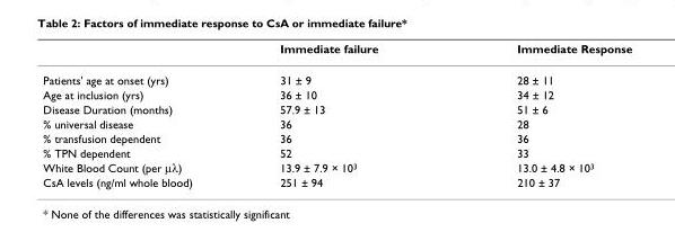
<table><thead><tr><td></td><td>Immediate failure</td><td>Immediate Response</td></tr></thead><tbody><tr><td>Patients&#x27; age at onset (yrs)</td><td>31 ± 9</td><td>28 ± 11</td></tr><tr><td>Age at inclusion (yrs)</td><td>36 ± 10</td><td>34 ± 12</td></tr><tr><td>Disease Duration (months)</td><td>57.9 ± 13</td><td>51 ± 6</td></tr><tr><td>% universal disease</td><td>36</td><td>28</td></tr><tr><td>% transfusion dependent</td><td>36</td><td>36</td></tr><tr><td>% TPN dependent</td><td>52</td><td>33</td></tr><tr><td>White Blood Count (per μλ)</td><td>13.9 ± 7.9 × 103</td><td>13.0 ± 4.8 × 103</td></tr><tr><td>CsA levels (ng/ml whole blood)</td><td>251 ± 94</td><td>210 ± 37</td></tr></tbody></table>